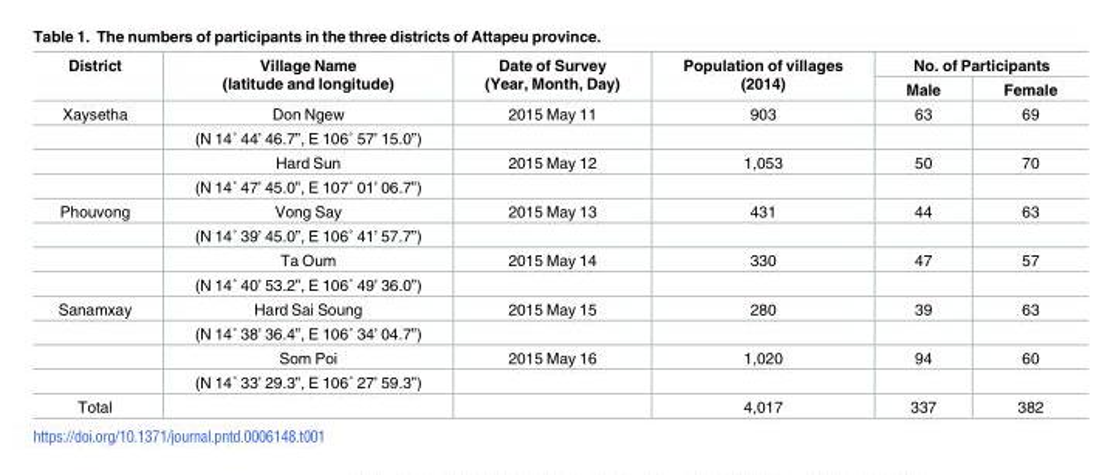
<table><thead><tr><td rowspan="2">District</td><td rowspan="2">Village Name (latitude and longitude)</td><td rowspan="2">Date of Survey (Year, Month, Day)</td><td rowspan="2">Population of villages (2014)</td><td colspan="2">No. of Participants</td></tr><tr><td>Male</td><td>Female</td></tr></thead><tbody><tr><td rowspan="4">Xaysetha</td><td>Don Ngew</td><td>2015 May 11</td><td>903</td><td>63</td><td>69</td></tr><tr><td>(N 14˚ 44’ 46.7”, E 106˚ 57’ 15.0”)</td><td></td><td></td><td></td><td></td></tr><tr><td>Hard Sun</td><td>2015 May 12</td><td>1,053</td><td>50</td><td>70</td></tr><tr><td>(N 14˚ 47’ 45.0”, E 107˚ 01’ 06.7”)</td><td></td><td></td><td></td><td></td></tr><tr><td rowspan="4">Phouvong</td><td>Vong Say</td><td>2015 May 13</td><td>431</td><td>44</td><td>63</td></tr><tr><td>(N 14˚ 39’ 45.0”, E 106˚ 41’ 57.7”)</td><td></td><td></td><td></td><td></td></tr><tr><td>Ta Oum</td><td>2015 May 14</td><td>330</td><td>47</td><td>57</td></tr><tr><td>(N 14˚ 40’ 53.2”, E 106˚ 49’ 36.0”)</td><td></td><td></td><td></td><td></td></tr><tr><td rowspan="4">Sanamxay</td><td>Hard Sai Soung</td><td>2015 May 15</td><td>280</td><td>39</td><td>63</td></tr><tr><td>(N 14˚ 38’ 36.4”, E 106˚ 34’ 04.7”)</td><td></td><td></td><td></td><td></td></tr><tr><td>Som Poi</td><td>2015 May 16</td><td>1,020</td><td>94</td><td>60</td></tr><tr><td>(N 14˚ 33’ 29.3”, E 106˚ 27’ 59.3”)</td><td></td><td></td><td></td><td></td></tr><tr><td>Total</td><td></td><td></td><td>4,017</td><td>337</td><td>382</td></tr></tbody></table>